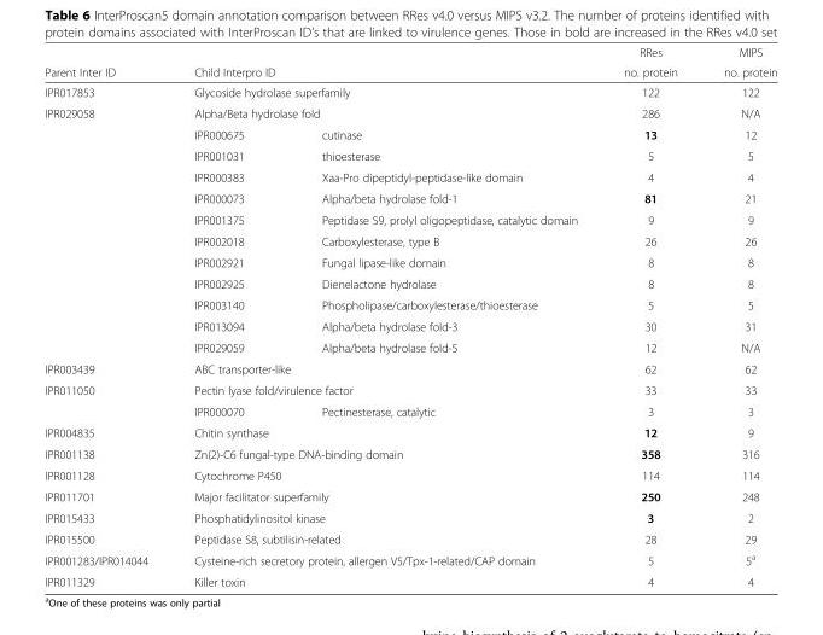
<table><thead><tr><td rowspan="2">Parent Inter ID</td><td rowspan="2">Child Interpro ID</td><td rowspan="2"></td><td rowspan="2">RRes no. protein</td><td rowspan="2">MIPS no. protein</td></tr><tr></tr></thead><tbody><tr><td>IPR017853</td><td colspan="2">Glycoside hydrolase superfamily</td><td>122</td><td>122</td></tr><tr><td rowspan="12">IPR029058</td><td colspan="2">Alpha/Beta hydrolase fold</td><td>286</td><td>N/A</td></tr><tr><td>IPR000675</td><td>cutinase</td><td>13</td><td>12</td></tr><tr><td>IPR001031</td><td>thioesterase</td><td>5</td><td>5</td></tr><tr><td>IPR000383</td><td>Xaa-Pro dipeptidyl-peptidase-like domain</td><td>4</td><td>4</td></tr><tr><td>IPR000073</td><td>Alpha/beta hydrolase fold-1</td><td>81</td><td>21</td></tr><tr><td>IPR001375</td><td>Peptidase S9, prolyl oligopeptidase, catalytic domain</td><td>9</td><td>9</td></tr><tr><td>IPR002018</td><td>Carboxylesterase, type B</td><td>26</td><td>26</td></tr><tr><td>IPR002921</td><td>Fungal lipase-like domain</td><td>8</td><td>8</td></tr><tr><td>IPR002925</td><td>Dienelactone hydrolase</td><td>8</td><td>8</td></tr><tr><td>IPR003140</td><td>Phospholipase/carboxylesterase/thioesterase</td><td>5</td><td>5</td></tr><tr><td>IPR013094</td><td>Alpha/beta hydrolase fold-3</td><td>30</td><td>31</td></tr><tr><td>IPR029059</td><td>Alpha/beta hydrolase fold-5</td><td>12</td><td>N/A</td></tr><tr><td>IPR003439</td><td colspan="2">ABC transporter-like</td><td>62</td><td>62</td></tr><tr><td rowspan="2">IPR011050</td><td colspan="2">Pectin lyase fold/virulence factor</td><td>33</td><td>33</td></tr><tr><td>IPR000070</td><td>Pectinesterase, catalytic</td><td>3</td><td>3</td></tr><tr><td>IPR004835</td><td colspan="2">Chitin synthase</td><td>12</td><td>9</td></tr><tr><td>IPR001138</td><td colspan="2">Zn(2)-C6 fungal-type DNA-binding domain</td><td>358</td><td>316</td></tr><tr><td>IPR001128</td><td colspan="2">Cytochrome P450</td><td>114</td><td>114</td></tr><tr><td>IPR011701</td><td colspan="2">Major facilitator superfamily</td><td>250</td><td>248</td></tr><tr><td>IPR015433</td><td colspan="2">Phosphatidylinositol kinase</td><td>3</td><td>2</td></tr><tr><td>IPR015500</td><td colspan="2">Peptidase S8, subtilisin-related</td><td>28</td><td>29</td></tr><tr><td>IPR001283/IPR014044</td><td colspan="2">Cysteine-rich secretory protein, allergen V5/Tpx-1-related/CAP domain</td><td>5</td><td>5<sup>a</sup></td></tr><tr><td>IPR011329</td><td colspan="2">Killer toxin</td><td>4</td><td>4</td></tr></tbody></table>